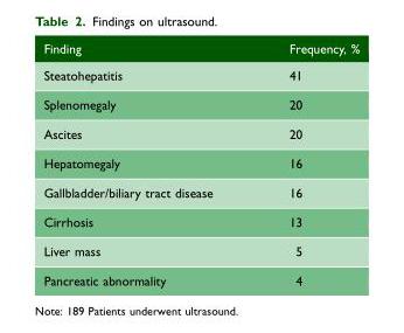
<table><thead><tr><td>Finding</td><td>Frequency, %</td></tr></thead><tbody><tr><td>Steatohepatitis</td><td>41</td></tr><tr><td>Splenomegaly</td><td>20</td></tr><tr><td>Ascites</td><td>20</td></tr><tr><td>Hepatomegaly</td><td>16</td></tr><tr><td>Gallbladder/biliary tract disease</td><td>16</td></tr><tr><td>Cirrhosis</td><td>13</td></tr><tr><td>Liver mass</td><td>5</td></tr><tr><td>Pancreatic abnormality</td><td>4</td></tr></tbody></table>